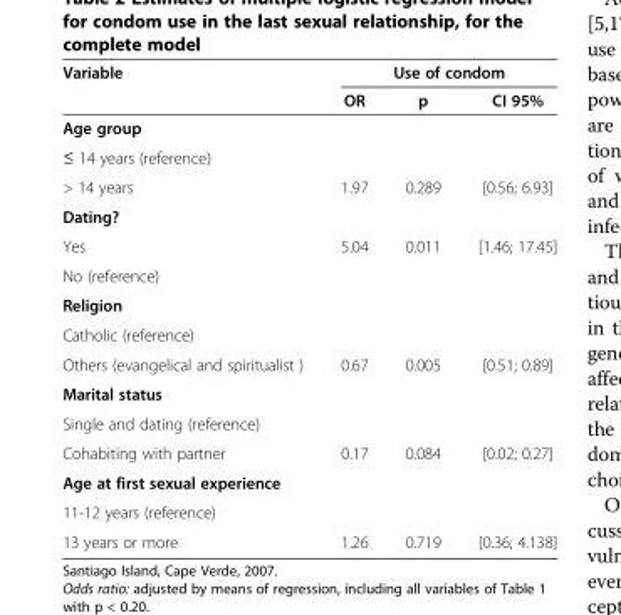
<table><thead><tr><td rowspan="2">Variable</td><td colspan="3">Use of condom</td></tr><tr><td>OR</td><td>p</td><td>CI 95%</td></tr></thead><tbody><tr><td colspan="4">Age group</td></tr><tr><td colspan="4">≤ 14 years (reference)</td></tr><tr><td>&gt; 14 years</td><td>1.97</td><td>0.289</td><td>[0.56; 6.93]</td></tr><tr><td colspan="4">Dating?</td></tr><tr><td>Yes</td><td>5.04</td><td>0.011</td><td>[1.46; 17.45]</td></tr><tr><td colspan="4">No (reference)</td></tr><tr><td colspan="4">Religion</td></tr><tr><td colspan="4">Catholic (reference)</td></tr><tr><td>Others (evangelical and spiritualist )</td><td>0.67</td><td>0.005</td><td>[0.51; 0.89]</td></tr><tr><td colspan="4">Marital status</td></tr><tr><td colspan="4">Single and dating (reference)</td></tr><tr><td>Cohabiting with partner</td><td>0.17</td><td>0.084</td><td>[0.02; 0.27]</td></tr><tr><td colspan="4">Age at first sexual experience</td></tr><tr><td colspan="4">11-12 years (reference)</td></tr><tr><td>13 years or more</td><td>1.26</td><td>0.719</td><td>[0.36; 4.138]</td></tr></tbody></table>